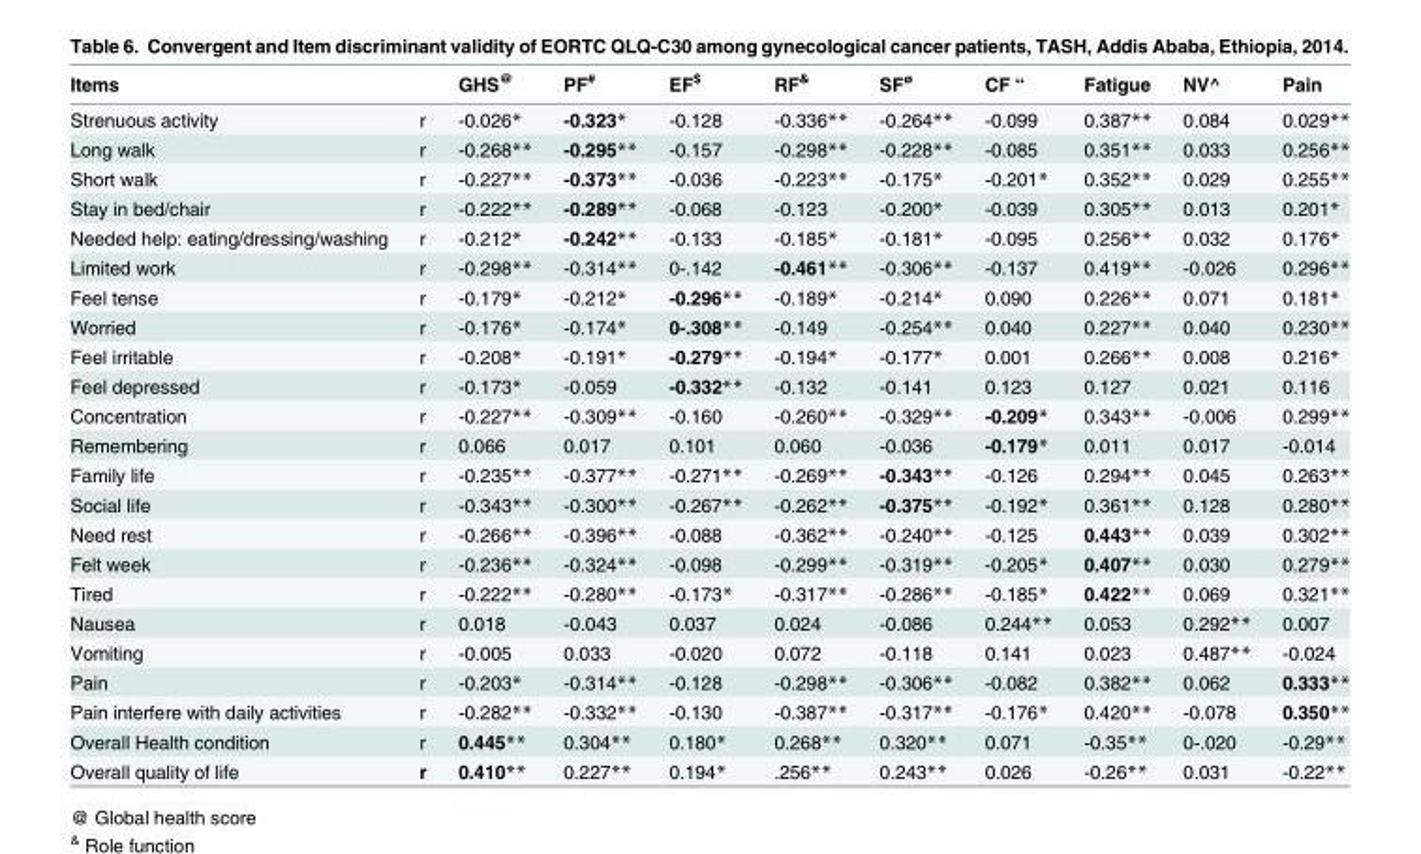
<table><thead><tr><td colspan="2">Items</td><td rowspan="2">GHS@ -0.026*</td><td rowspan="2">PF<sup>#</sup> -0.323*</td><td rowspan="2">EF<sup>$</sup> -0.128</td><td rowspan="2">RF<sup>&amp;</sup> -0.336**</td><td rowspan="2">SF<sup>ø</sup> -0.264**</td><td rowspan="2">CF “ -0.099</td><td rowspan="2">Fatigue 0.387**</td><td rowspan="2">NV^ 0.084</td><td rowspan="2">Pain 0.029**</td></tr><tr><td>Strenuous activity</td><td>r</td></tr></thead><tbody><tr><td>Long walk</td><td>r</td><td>-0.268**</td><td>-0.295**</td><td>-0.157</td><td>-0.298**</td><td>-0.228**</td><td>-0.085</td><td>0.351**</td><td>0.033</td><td>0.256**</td></tr><tr><td>Short walk</td><td>r</td><td>-0.227**</td><td>-0.373**</td><td>-0.036</td><td>-0.223**</td><td>-0.175*</td><td>-0.201*</td><td>0.352**</td><td>0.029</td><td>0.255**</td></tr><tr><td>Stay in bed/chair</td><td>r</td><td>-0.222**</td><td>-0.289**</td><td>-0.068</td><td>-0.123</td><td>-0.200*</td><td>-0.039</td><td>0.305**</td><td>0.013</td><td>0.201*</td></tr><tr><td>Needed help: eating/dressing/washing</td><td>r</td><td>-0.212*</td><td>-0.242**</td><td>-0.133</td><td>-0.185*</td><td>-0.181*</td><td>-0.095</td><td>0.256**</td><td>0.032</td><td>0.176*</td></tr><tr><td>Limited work</td><td>r</td><td>-0.298**</td><td>-0.314**</td><td>0-.142</td><td>-0.461**</td><td>-0.306**</td><td>-0.137</td><td>0.419**</td><td>-0.026</td><td>0.296**</td></tr><tr><td>Feel tense</td><td>r</td><td>-0.179*</td><td>-0.212*</td><td>-0.296**</td><td>-0.189*</td><td>-0.214*</td><td>0.090</td><td>0.226**</td><td>0.071</td><td>0.181*</td></tr><tr><td>Worried</td><td>r</td><td>-0.176*</td><td>-0.174*</td><td>0-.308**</td><td>-0.149</td><td>-0.254**</td><td>0.040</td><td>0.227**</td><td>0.040</td><td>0.230**</td></tr><tr><td>Feel irritable</td><td>r</td><td>-0.208*</td><td>-0.191*</td><td>-0.279**</td><td>-0.194*</td><td>-0.177*</td><td>0.001</td><td>0.266**</td><td>0.008</td><td>0.216*</td></tr><tr><td>Feel depressed</td><td>r</td><td>-0.173*</td><td>-0.059</td><td>-0.332**</td><td>-0.132</td><td>-0.141</td><td>0.123</td><td>0.127</td><td>0.021</td><td>0.116</td></tr><tr><td>Concentration</td><td>r</td><td>-0.227**</td><td>-0.309**</td><td>-0.160</td><td>-0.260**</td><td>-0.329**</td><td>-0.209*</td><td>0.343**</td><td>-0.006</td><td>0.299**</td></tr><tr><td>Remembering</td><td>r</td><td>0.066</td><td>0.017</td><td>0.101</td><td>0.060</td><td>-0.036</td><td>-0.179*</td><td>0.011</td><td>0.017</td><td>-0.014</td></tr><tr><td>Family life</td><td>r</td><td>-0.235**</td><td>-0.377**</td><td>-0.271**</td><td>-0.269**</td><td>-0.343**</td><td>-0.126</td><td>0.294**</td><td>0.045</td><td>0.263**</td></tr><tr><td>Social life</td><td>r</td><td>-0.343**</td><td>-0.300**</td><td>-0.267**</td><td>-0.262**</td><td>-0.375**</td><td>-0.192*</td><td>0.361**</td><td>0.128</td><td>0.280**</td></tr><tr><td>Need rest</td><td>r</td><td>-0.266**</td><td>-0.396**</td><td>-0.088</td><td>-0.362**</td><td>-0.240**</td><td>-0.125</td><td>0.443**</td><td>0.039</td><td>0.302**</td></tr><tr><td>Felt week</td><td>r</td><td>-0.236**</td><td>-0.324**</td><td>-0.098</td><td>-0.299**</td><td>-0.319**</td><td>-0.205*</td><td>0.407**</td><td>0.030</td><td>0.279**</td></tr><tr><td>Tired</td><td>r</td><td>-0.222**</td><td>-0.280**</td><td>-0.173*</td><td>-0.317**</td><td>-0.286**</td><td>-0.185*</td><td>0.422**</td><td>0.069</td><td>0.321**</td></tr><tr><td>Nausea</td><td>r</td><td>0.018</td><td>-0.043</td><td>0.037</td><td>0.024</td><td>-0.086</td><td>0.244**</td><td>0.053</td><td>0.292**</td><td>0.007</td></tr><tr><td>Vomiting</td><td>r</td><td>-0.005</td><td>0.033</td><td>-0.020</td><td>0.072</td><td>-0.118</td><td>0.141</td><td>0.023</td><td>0.487**</td><td>-0.024</td></tr><tr><td>Pain</td><td>r</td><td>-0.203*</td><td>-0.314**</td><td>-0.128</td><td>-0.298**</td><td>-0.306**</td><td>-0.082</td><td>0.382**</td><td>0.062</td><td>0.333**</td></tr><tr><td>Pain interfere with daily activities</td><td>r</td><td>-0.282**</td><td>-0.332**</td><td>-0.130</td><td>-0.387**</td><td>-0.317**</td><td>-0.176*</td><td>0.420**</td><td>-0.078</td><td>0.350**</td></tr><tr><td>Overall Health condition</td><td>r</td><td>0.445**</td><td>0.304**</td><td>0.180*</td><td>0.268**</td><td>0.320**</td><td>0.071</td><td>-0.35**</td><td>0-.020</td><td>-0.29**</td></tr><tr><td>Overall quality of life</td><td>r</td><td>0.410**</td><td>0.227**</td><td>0.194*</td><td>.256**</td><td>0.243**</td><td>0.026</td><td>-0.26**</td><td>0.031</td><td>-0.22**</td></tr></tbody></table>